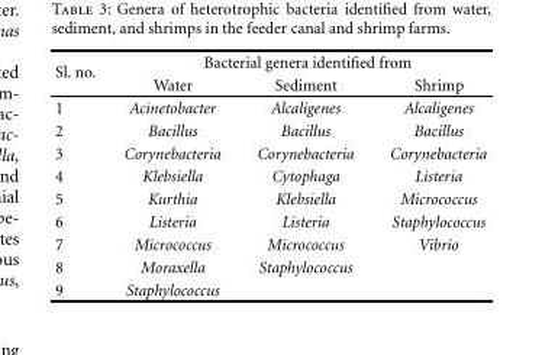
<table><thead><tr><td rowspan="2">Sl. no.</td><td colspan="3">Bacterial genera identified from</td></tr><tr><td>Water</td><td>Sediment</td><td>Shrimp</td></tr></thead><tbody><tr><td>1</td><td>Acinetobacter</td><td>Alcaligenes</td><td>Alcaligenes</td></tr><tr><td>2</td><td>Bacillus</td><td>Bacillus</td><td>Bacillus</td></tr><tr><td>3</td><td>Corynebacteria</td><td>Corynebacteria</td><td>Corynebacteria</td></tr><tr><td>4</td><td>Klebsiella</td><td>Cytophaga</td><td>Listeria</td></tr><tr><td>5</td><td>Kurthia</td><td>Klebsiella</td><td>Micrococcus</td></tr><tr><td>6</td><td>Listeria</td><td>Listeria</td><td>Staphylococcus</td></tr><tr><td>7</td><td>Micrococcus</td><td>Micrococcus</td><td>Vibrio</td></tr><tr><td>8</td><td>Moraxella</td><td>Staphylococcus</td><td></td></tr><tr><td>9</td><td>Staphylococcus</td><td></td><td></td></tr></tbody></table>